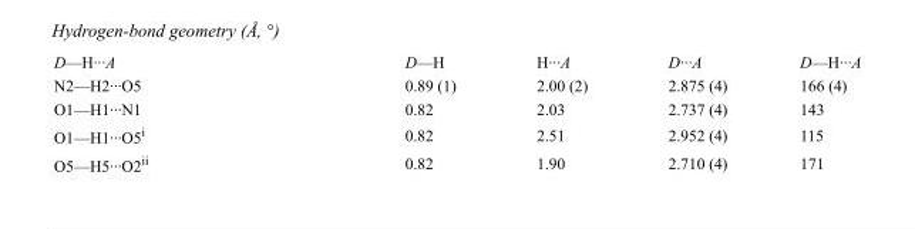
<table><tbody><tr><td>D—H···A</td><td>D—H</td><td>H···A</td><td>D···A</td><td>D—H···A</td></tr><tr><td>N2—H2···O5</td><td>0.89 (1)</td><td>2.00 (2)</td><td>2.875 (4)</td><td>166 (4)</td></tr><tr><td>O1—H1···N1</td><td>0.82</td><td>2.03</td><td>2.737 (4)</td><td>143</td></tr><tr><td>O1—H1···O5<sup>i</sup></td><td>0.82</td><td>2.51</td><td>2.952 (4)</td><td>115</td></tr><tr><td>O5—H5···O2<sup>ii</sup></td><td>0.82</td><td>1.90</td><td>2.710 (4)</td><td>171</td></tr></tbody></table>